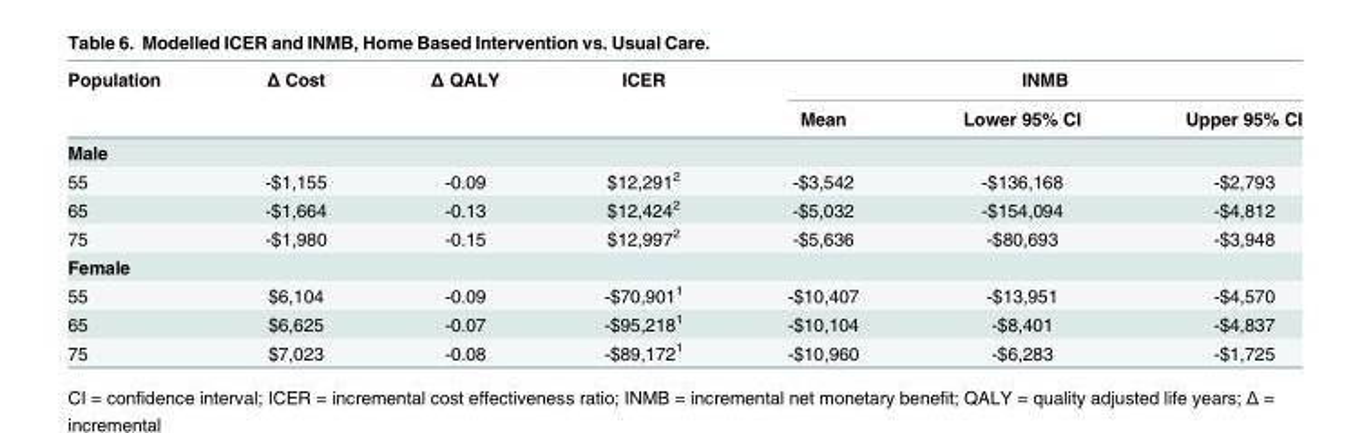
<table><thead><tr><td rowspan="2">Population</td><td rowspan="2">Δ Cost</td><td rowspan="2">Δ QALY</td><td rowspan="2">ICER</td><td colspan="3">INMB</td></tr><tr><td>Mean</td><td>Lower 95% CI</td><td>Upper 95% CI</td></tr></thead><tbody><tr><td colspan="7">Male</td></tr><tr><td>55</td><td>-$1,155</td><td>-0.09</td><td>$12,291<sup>2</sup></td><td>-$3,542</td><td>-$136,168</td><td>-$2,793</td></tr><tr><td>65</td><td>-$1,664</td><td>-0.13</td><td>$12,424<sup>2</sup></td><td>-$5,032</td><td>-$154,094</td><td>-$4,812</td></tr><tr><td>75</td><td>-$1,980</td><td>-0.15</td><td>$12,997<sup>2</sup></td><td>-$5,636</td><td>-$80,693</td><td>-$3,948</td></tr><tr><td colspan="7">Female</td></tr><tr><td>55</td><td>$6,104</td><td>-0.09</td><td>-$70,901<sup>1</sup></td><td>-$10,407</td><td>-$13,951</td><td>-$4,570</td></tr><tr><td>65</td><td>$6,625</td><td>-0.07</td><td>-$95,218<sup>1</sup></td><td>-$10,104</td><td>-$8,401</td><td>-$4,837</td></tr><tr><td>75</td><td>$7,023</td><td>-0.08</td><td>-$89,172<sup>1</sup></td><td>-$10,960</td><td>-$6,283</td><td>-$1,725</td></tr></tbody></table>